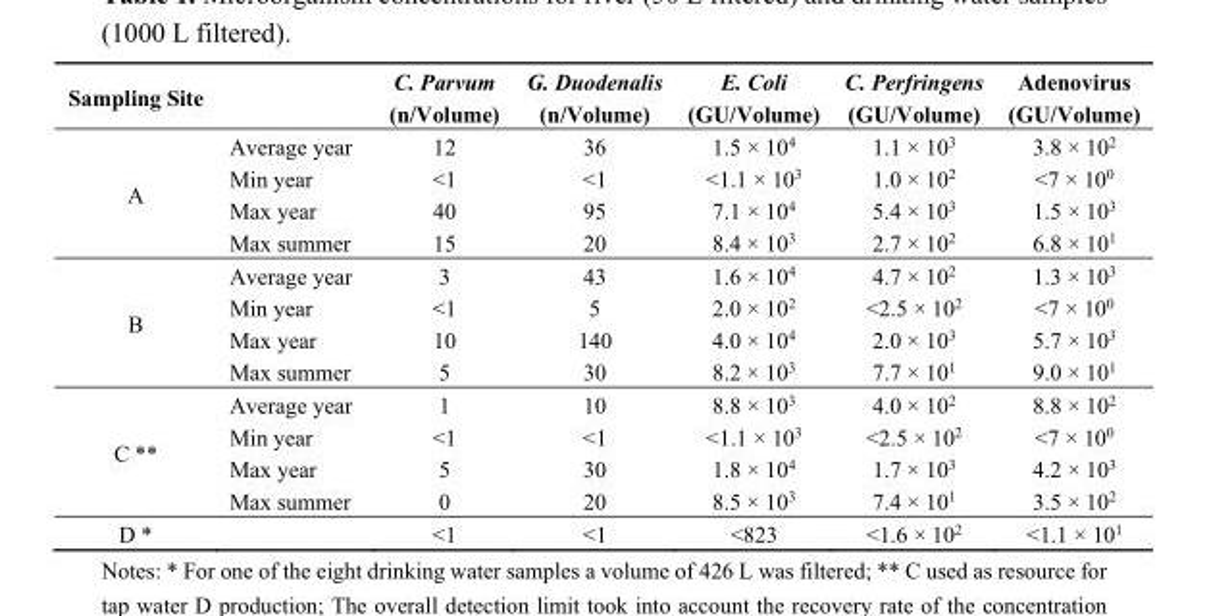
<table><thead><tr><td>Sampling Site</td><td></td><td>C. Parvum (n/Volume)</td><td>G. Duodenalis (n/Volume)</td><td>E. Coli (GU/Volume)</td><td>C. Perfringens (GU/Volume)</td><td>Adenovirus (GU/Volume)</td></tr></thead><tbody><tr><td rowspan="4">A</td><td>Average year</td><td>12</td><td>36</td><td>1.5 × 10<sup>4</sup></td><td>1.1 × 10<sup>3</sup></td><td>3.8 × 10<sup>2</sup></td></tr><tr><td>Min year</td><td>&lt;1</td><td>&lt;1</td><td>&lt;1.1 × 10<sup>3</sup></td><td>1.0 × 10<sup>2</sup></td><td>&lt;7 × 10<sup>0</sup></td></tr><tr><td>Max year</td><td>40</td><td>95</td><td>7.1 × 10<sup>4</sup></td><td>5.4 × 10<sup>3</sup></td><td>1.5 × 10<sup>3</sup></td></tr><tr><td>Max summer</td><td>15</td><td>20</td><td>8.4 × 10<sup>3</sup></td><td>2.7 × 10<sup>2</sup></td><td>6.8 × 10<sup>1</sup></td></tr><tr><td rowspan="4">B</td><td>Average year</td><td>3</td><td>43</td><td>1.6 × 10<sup>4</sup></td><td>4.7 × 10<sup>2</sup></td><td>1.3 × 10<sup>3</sup></td></tr><tr><td>Min year</td><td>&lt;1</td><td>5</td><td>2.0 × 10<sup>2</sup></td><td>&lt;2.5 × 10<sup>2</sup></td><td>&lt;7 × 10<sup>0</sup></td></tr><tr><td>Max year</td><td>10</td><td>140</td><td>4.0 × 10<sup>4</sup></td><td>2.0 × 10<sup>3</sup></td><td>5.7 × 10<sup>3</sup></td></tr><tr><td>Max summer</td><td>5</td><td>30</td><td>8.2 × 10<sup>3</sup></td><td>7.7 × 10<sup>1</sup></td><td>9.0 × 10<sup>1</sup></td></tr><tr><td rowspan="4">C **</td><td>Average year</td><td>1</td><td>10</td><td>8.8 × 10<sup>3</sup></td><td>4.0 × 10<sup>2</sup></td><td>8.8 × 10<sup>2</sup></td></tr><tr><td>Min year</td><td>&lt;1</td><td>&lt;1</td><td>&lt;1.1 × 10<sup>3</sup></td><td>&lt;2.5 × 10<sup>2</sup></td><td>&lt;7 × 10<sup>0</sup></td></tr><tr><td>Max year</td><td>5</td><td>30</td><td>1.8 × 10<sup>4</sup></td><td>1.7 × 10<sup>3</sup></td><td>4.2 × 10<sup>3</sup></td></tr><tr><td>Max summer</td><td>0</td><td>20</td><td>8.5 × 10<sup>3</sup></td><td>7.4 × 10<sup>1</sup></td><td>3.5 × 10<sup>2</sup></td></tr><tr><td>D *</td><td></td><td>&lt;1</td><td>&lt;1</td><td>&lt;823</td><td>&lt;1.6 × 10<sup>2</sup></td><td>&lt;1.1 × 10<sup>1</sup></td></tr></tbody></table>